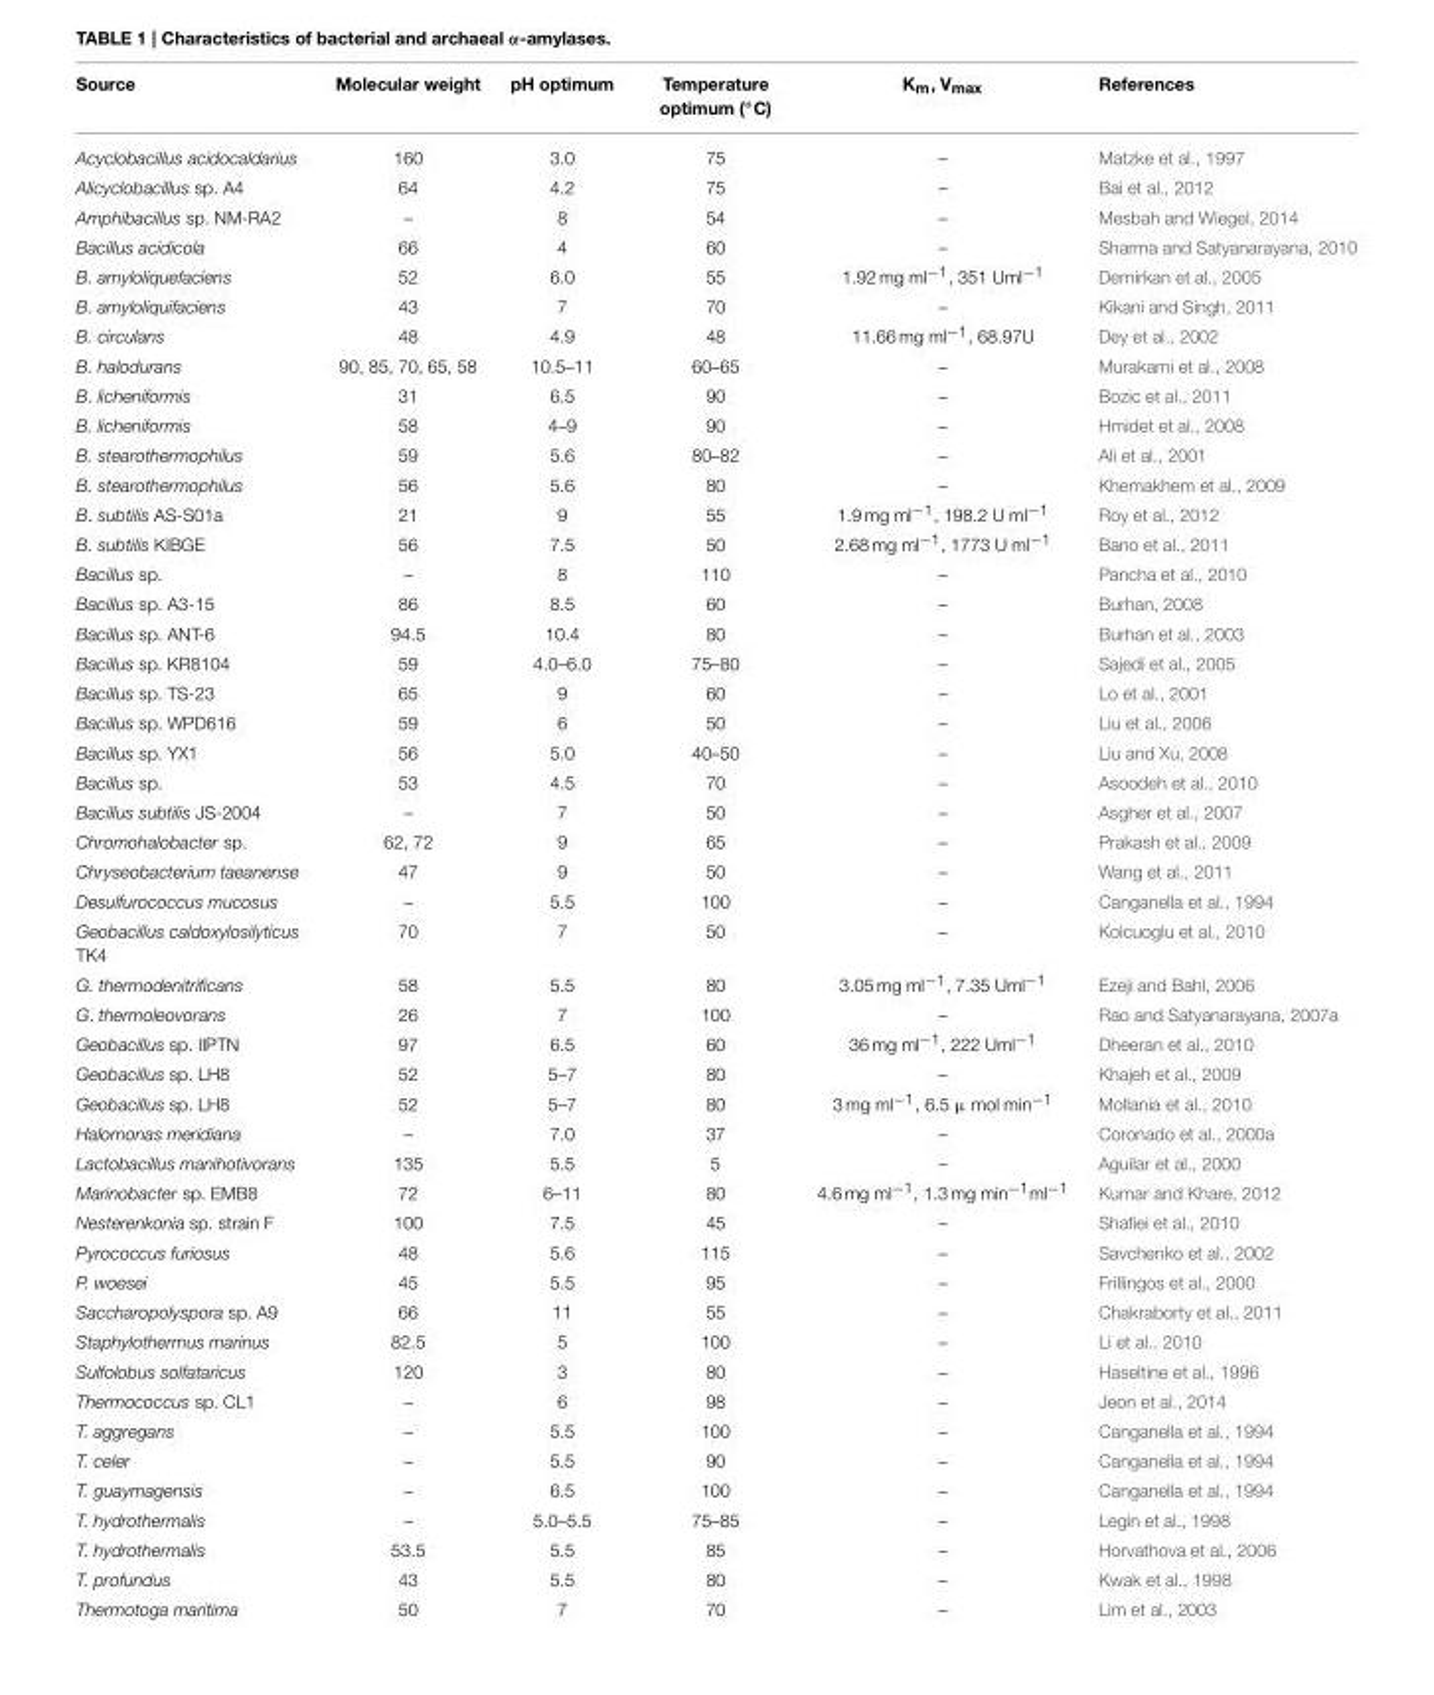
<table><thead><tr><td>Source</td><td>Molecular weight</td><td>pH optimum</td><td>Temperature optimum (◦C)</td><td>K<sub>m</sub>, V<sub>max</sub></td><td>References</td></tr></thead><tbody><tr><td>Acyclobacillus acidocaldarius</td><td>160</td><td>3.0</td><td>75</td><td>–</td><td>Matzke et al., 1997</td></tr><tr><td>Alicyclobacillus sp. A4</td><td>64</td><td>4.2</td><td>75</td><td>–</td><td>Bai et al., 2012</td></tr><tr><td>Amphibacillus sp. NM-RA2</td><td>–</td><td>8</td><td>54</td><td>–</td><td>Mesbah and Wiegel, 2014</td></tr><tr><td>Bacillus acidicola</td><td>66</td><td>4</td><td>60</td><td>–</td><td>Sharma and Satyanarayana, 2010</td></tr><tr><td>B. amyloliquefaciens</td><td>52</td><td>6.0</td><td>55</td><td>1.92 mg ml<sup>−1</sup>, 351 Uml<sup>−1</sup></td><td>Demirkan et al., 2005</td></tr><tr><td>B. amyloliquifaciens</td><td>43</td><td>7</td><td>70</td><td>–</td><td>Kikani and Singh, 2011</td></tr><tr><td>B. circulans</td><td>48</td><td>4.9</td><td>48</td><td>11.66 mg ml<sup>−1</sup>, 68.97U</td><td>Dey et al., 2002</td></tr><tr><td>B. halodurans</td><td>90, 85, 70, 65, 58</td><td>10.5–11</td><td>60–65</td><td>–</td><td>Murakami et al., 2008</td></tr><tr><td>B. licheniformis</td><td>31</td><td>6.5</td><td>90</td><td>–</td><td>Bozic et al., 2011</td></tr><tr><td>B. licheniformis</td><td>58</td><td>4–9</td><td>90</td><td>–</td><td>Hmidet et al., 2008</td></tr><tr><td>B. stearothermophilus</td><td>59</td><td>5.6</td><td>80–82</td><td>–</td><td>Ali et al., 2001</td></tr><tr><td>B. stearothermophilus</td><td>56</td><td>5.6</td><td>80</td><td>–</td><td>Khemakhem et al., 2009</td></tr><tr><td>B. subtilis AS-S01a</td><td>21</td><td>9</td><td>55</td><td>1.9 mg ml<sup>−1</sup>, 198.2 U ml<sup>−1</sup></td><td>Roy et al., 2012</td></tr><tr><td>B. subtilis KIBGE</td><td>56</td><td>7.5</td><td>50</td><td>2.68 mg ml<sup>−1</sup>, 1773 U ml<sup>−1</sup></td><td>Bano et al., 2011</td></tr><tr><td>Bacillus sp.</td><td>–</td><td>8</td><td>110</td><td>–</td><td>Pancha et al., 2010</td></tr><tr><td>Bacillus sp. A3-15</td><td>86</td><td>8.5</td><td>60</td><td>–</td><td>Burhan, 2008</td></tr><tr><td>Bacillus sp. ANT-6</td><td>94.5</td><td>10.4</td><td>80</td><td>–</td><td>Burhan et al., 2003</td></tr><tr><td>Bacillus sp. KR8104</td><td>59</td><td>4.0–6.0</td><td>75–80</td><td>–</td><td>Sajedi et al., 2005</td></tr><tr><td>Bacillus sp. TS-23</td><td>65</td><td>9</td><td>60</td><td>–</td><td>Lo et al., 2001</td></tr><tr><td>Bacillus sp. WPD616</td><td>59</td><td>6</td><td>50</td><td>–</td><td>Liu et al., 2006</td></tr><tr><td>Bacillus sp. YX1</td><td>56</td><td>5.0</td><td>40–50</td><td>–</td><td>Liu and Xu, 2008</td></tr><tr><td>Bacillus sp.</td><td>53</td><td>4.5</td><td>70</td><td>–</td><td>Asoodeh et al., 2010</td></tr><tr><td>Bacillus subtilis JS-2004</td><td>–</td><td>7</td><td>50</td><td>–</td><td>Asgher et al., 2007</td></tr><tr><td>Chromohalobacter sp.</td><td>62, 72</td><td>9</td><td>65</td><td>–</td><td>Prakash et al., 2009</td></tr><tr><td>Chryseobacterium taeanense</td><td>47</td><td>9</td><td>50</td><td>–</td><td>Wang et al., 2011</td></tr><tr><td>Desulfurococcus mucosus</td><td>–</td><td>5.5</td><td>100</td><td>–</td><td>Canganella et al., 1994</td></tr><tr><td>Geobacillus caldoxylosilyticus TK4</td><td>70</td><td>7</td><td>50</td><td>–</td><td>Kolcuoglu et al., 2010</td></tr><tr><td>G. thermodenitrificans</td><td>58</td><td>5.5</td><td>80</td><td>3.05 mg ml<sup>−1</sup>, 7.35 Uml<sup>−1</sup></td><td>Ezeji and Bahl, 2006</td></tr><tr><td>G. thermoleovorans</td><td>26</td><td>7</td><td>100</td><td>–</td><td>Rao and Satyanarayana, 2007a</td></tr><tr><td>Geobacillus sp. IIPTN</td><td>97</td><td>6.5</td><td>60</td><td>36 mg ml<sup>−1</sup>, 222 Uml<sup>−1</sup></td><td>Dheeran et al., 2010</td></tr><tr><td>Geobacillus sp. LH8</td><td>52</td><td>5–7</td><td>80</td><td>–</td><td>Khajeh et al., 2009</td></tr><tr><td>Geobacillus sp. LH8</td><td>52</td><td>5–7</td><td>80</td><td>3 mg ml<sup>−1</sup>, 6.5 µ mol min<sup>−1</sup></td><td>Mollania et al., 2010</td></tr><tr><td>Halomonas meridiana</td><td>–</td><td>7.0</td><td>37</td><td>–</td><td>Coronado et al., 2000a</td></tr><tr><td>Lactobacillus manihotivorans</td><td>135</td><td>5.5</td><td>5</td><td>–</td><td>Aguilar et al., 2000</td></tr><tr><td>Marinobacter sp. EMB8</td><td>72</td><td>6–11</td><td>80</td><td>4.6 mg ml<sup>−1</sup>, 1.3 mg min<sup>−1</sup>ml<sup>−1</sup></td><td>Kumar and Khare, 2012</td></tr><tr><td>Nesterenkonia sp. strain F</td><td>100</td><td>7.5</td><td>45</td><td>–</td><td>Shafiei et al., 2010</td></tr><tr><td>Pyrococcus furiosus</td><td>48</td><td>5.6</td><td>115</td><td>–</td><td>Savchenko et al., 2002</td></tr><tr><td>P. woesei</td><td>45</td><td>5.5</td><td>95</td><td>–</td><td>Frillingos et al., 2000</td></tr><tr><td>Saccharopolyspora sp. A9</td><td>66</td><td>11</td><td>55</td><td>–</td><td>Chakraborty et al., 2011</td></tr><tr><td>Staphylothermus marinus</td><td>82.5</td><td>5</td><td>100</td><td>–</td><td>Li et al., 2010</td></tr><tr><td>Sulfolobus solfataricus</td><td>120</td><td>3</td><td>80</td><td>–</td><td>Haseltine et al., 1996</td></tr><tr><td>Thermococcus sp. CL1</td><td>–</td><td>6</td><td>98</td><td>–</td><td>Jeon et al., 2014</td></tr><tr><td>T. aggregans</td><td>–</td><td>5.5</td><td>100</td><td>–</td><td>Canganella et al., 1994</td></tr><tr><td>T. celer</td><td>–</td><td>5.5</td><td>90</td><td>–</td><td>Canganella et al., 1994</td></tr><tr><td>T. guaymagensis</td><td>–</td><td>6.5</td><td>100</td><td>–</td><td>Canganella et al., 1994</td></tr><tr><td>T. hydrothermalis</td><td>–</td><td>5.0–5.5</td><td>75–85</td><td>–</td><td>Legin et al., 1998</td></tr><tr><td>T. hydrothermalis</td><td>53.5</td><td>5.5</td><td>85</td><td>–</td><td>Horvathova et al., 2006</td></tr><tr><td>T. profundus</td><td>43</td><td>5.5</td><td>80</td><td>–</td><td>Kwak et al., 1998</td></tr><tr><td>Thermotoga maritima</td><td>50</td><td>7</td><td>70</td><td>–</td><td>Lim et al., 2003</td></tr></tbody></table>